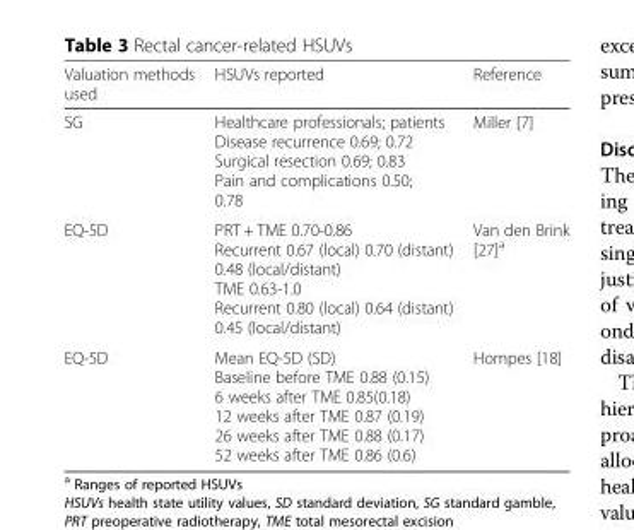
<table><thead><tr><td>Valuation methods used</td><td>HSUVs reported</td><td>Reference</td></tr></thead><tbody><tr><td>SG</td><td>Healthcare professionals; patients Disease recurrence 0.69; 0.72 Surgical resection 0.69; 0.83 Pain and complications 0.50; 0.78</td><td>Miller [7]</td></tr><tr><td>EQ-5D</td><td>PRT + TME 0.70-0.86 Recurrent 0.67 (local) 0.70 (distant) 0.48 (local/distant) TME 0.63-1.0 Recurrent 0.80 (local) 0.64 (distant) 0.45 (local/distant)</td><td>Van den Brink [27]<sup>a</sup></td></tr><tr><td>EQ-5D</td><td>Mean EQ-5D (SD) Baseline before TME 0.88 (0.15) 6 weeks after TME 0.85(0.18) 12 weeks after TME 0.87 (0.19) 26 weeks after TME 0.88 (0.17) 52 weeks after TME 0.86 (0.6)</td><td>Hompes [18]</td></tr></tbody></table>